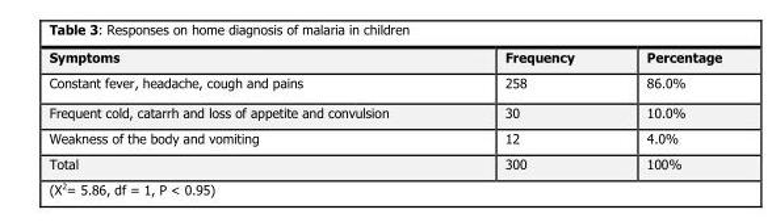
<table><thead><tr><td>Symptoms</td><td>Frequency</td><td>Percentage</td></tr></thead><tbody><tr><td>Constant fever, headache, cough and pains</td><td>258</td><td>86.0%</td></tr><tr><td>Frequent cold, catarrh and loss of appetite and convulsion</td><td>30</td><td>10.0%</td></tr><tr><td>Weakness of the body and vomiting</td><td>12</td><td>4.0%</td></tr><tr><td>Total</td><td>300</td><td>100%</td></tr></tbody></table>